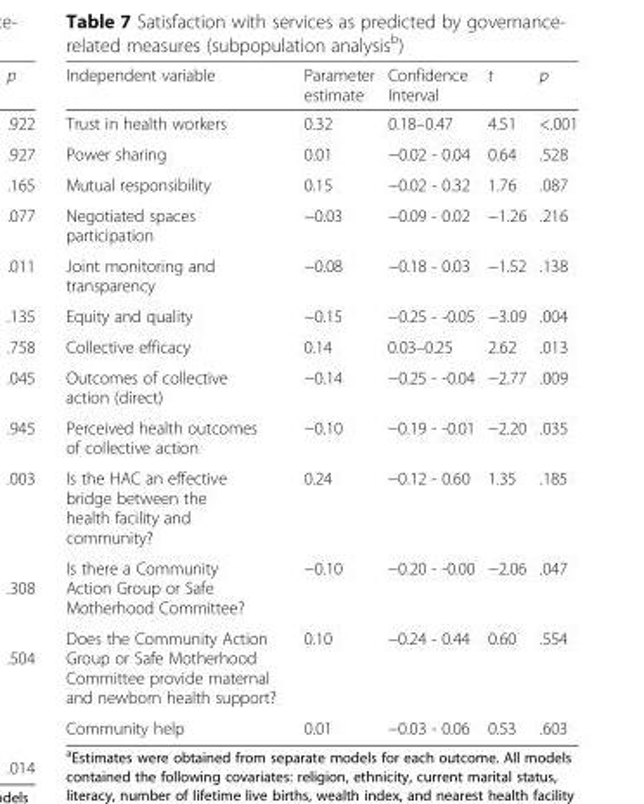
<table><thead><tr><td>Independent variable</td><td>Parameter estimate</td><td>Confidence Interval</td><td>t</td><td>p</td></tr></thead><tbody><tr><td>Trust in health workers</td><td>0.32</td><td>0.18–0.47</td><td>4.51</td><td>&lt;.001</td></tr><tr><td>Power sharing</td><td>0.01</td><td>−0.02 - 0.04</td><td>0.64</td><td>.528</td></tr><tr><td>Mutual responsibility</td><td>0.15</td><td>−0.02 - 0.32</td><td>1.76</td><td>.087</td></tr><tr><td>Negotiated spaces participation</td><td>−0.03</td><td>−0.09 - 0.02</td><td>−1.26</td><td>.216</td></tr><tr><td>Joint monitoring and transparency</td><td>−0.08</td><td>−0.18 - 0.03</td><td>−1.52</td><td>.138</td></tr><tr><td>Equity and quality</td><td>−0.15</td><td>−0.25 - -0.05</td><td>−3.09</td><td>.004</td></tr><tr><td>Collective efficacy</td><td>0.14</td><td>0.03–0.25</td><td>2.62</td><td>.013</td></tr><tr><td>Outcomes of collective action (direct)</td><td>−0.14</td><td>−0.25 - -0.04</td><td>−2.77</td><td>.009</td></tr><tr><td>Perceived health outcomes of collective action</td><td>−0.10</td><td>−0.19 - -0.01</td><td>−2.20</td><td>.035</td></tr><tr><td>Is the HAC an effective bridge between the health facility and community?</td><td>0.24</td><td>−0.12 - 0.60</td><td>1.35</td><td>.185</td></tr><tr><td>Is there a Community Action Group or Safe Motherhood Committee?</td><td>−0.10</td><td>−0.20 - -0.00</td><td>−2.06</td><td>.047</td></tr><tr><td>Does the Community Action Group or Safe Motherhood Committee provide maternal and newborn health support?</td><td>0.10</td><td>−0.24 - 0.44</td><td>0.60</td><td>.554</td></tr><tr><td>Community help</td><td>0.01</td><td>−0.03 - 0.06</td><td>0.53</td><td>.603</td></tr></tbody></table>